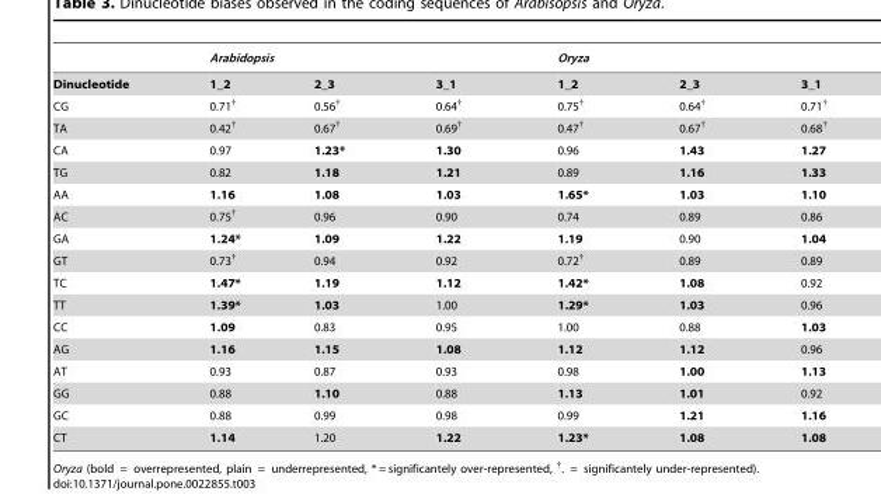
<table><thead><tr><td rowspan="2">Dinucleotide</td><td colspan="3">Arabidopsis</td><td colspan="3">Oryza</td></tr><tr><td>1_2</td><td>2_3</td><td>3_1</td><td>1_2</td><td>2_3</td><td>3_1</td></tr></thead><tbody><tr><td>CG</td><td>0.71<sup>†</sup></td><td>0.56<sup>†</sup></td><td>0.64<sup>†</sup></td><td>0.75<sup>†</sup></td><td>0.64<sup>†</sup></td><td>0.71<sup>†</sup></td></tr><tr><td>TA</td><td>0.42<sup>†</sup></td><td>0.67<sup>†</sup></td><td>0.69<sup>†</sup></td><td>0.47<sup>†</sup></td><td>0.67<sup>†</sup></td><td>0.68<sup>†</sup></td></tr><tr><td>CA</td><td>0.97</td><td>1.23*</td><td>1.30</td><td>0.96</td><td>1.43</td><td>1.27</td></tr><tr><td>TG</td><td>0.82</td><td>1.18</td><td>1.21</td><td>0.89</td><td>1.16</td><td>1.33</td></tr><tr><td>AA</td><td>1.16</td><td>1.08</td><td>1.03</td><td>1.65*</td><td>1.03</td><td>1.10</td></tr><tr><td>AC</td><td>0.75<sup>†</sup></td><td>0.96</td><td>0.90</td><td>0.74</td><td>0.89</td><td>0.86</td></tr><tr><td>GA</td><td>1.24*</td><td>1.09</td><td>1.22</td><td>1.19</td><td>0.90</td><td>1.04</td></tr><tr><td>GT</td><td>0.73<sup>†</sup></td><td>0.94</td><td>0.92</td><td>0.72<sup>†</sup></td><td>0.89</td><td>0.89</td></tr><tr><td>TC</td><td>1.47*</td><td>1.19</td><td>1.12</td><td>1.42*</td><td>1.08</td><td>0.92</td></tr><tr><td>TT</td><td>1.39*</td><td>1.03</td><td>1.00</td><td>1.29*</td><td>1.03</td><td>0.96</td></tr><tr><td>CC</td><td>1.09</td><td>0.83</td><td>0.95</td><td>1.00</td><td>0.88</td><td>1.03</td></tr><tr><td>AG</td><td>1.16</td><td>1.15</td><td>1.08</td><td>1.12</td><td>1.12</td><td>0.96</td></tr><tr><td>AT</td><td>0.93</td><td>0.87</td><td>0.93</td><td>0.98</td><td>1.00</td><td>1.13</td></tr><tr><td>GG</td><td>0.88</td><td>1.10</td><td>0.88</td><td>1.13</td><td>1.01</td><td>0.92</td></tr><tr><td>GC</td><td>0.88</td><td>0.99</td><td>0.98</td><td>0.99</td><td>1.21</td><td>1.16</td></tr><tr><td>CT</td><td>1.14</td><td>1.20</td><td>1.22</td><td>1.23*</td><td>1.08</td><td>1.08</td></tr></tbody></table>